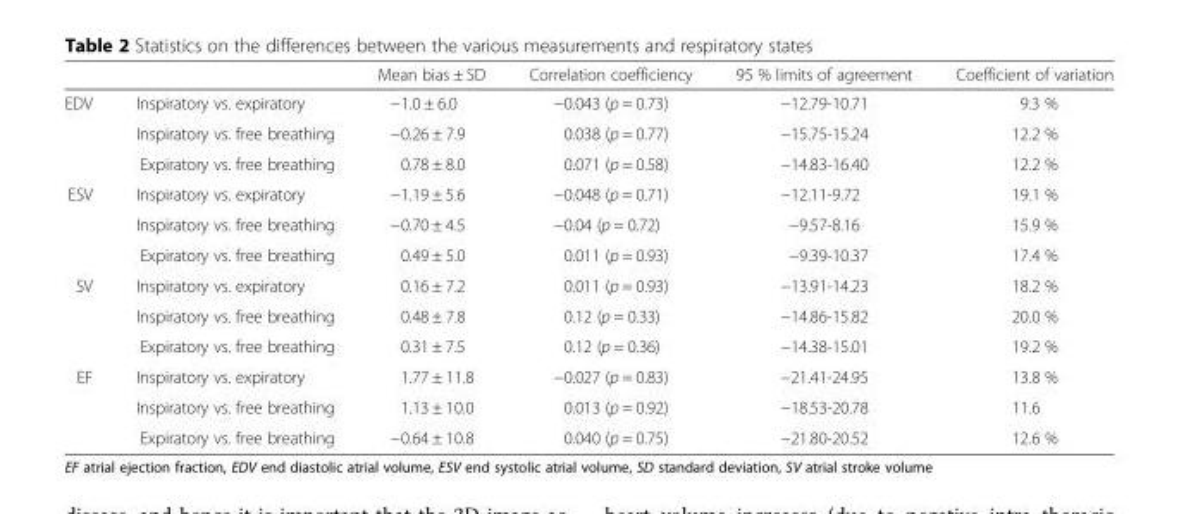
<table><thead><tr><td></td><td></td><td>Mean bias ± SD</td><td>Correlation coefficiency</td><td>95 % limits of agreement</td><td>Coefficient of variation</td></tr></thead><tbody><tr><td rowspan="3">EDV</td><td>Inspiratory vs. expiratory</td><td>−1.0 ± 6.0</td><td>−0.043 (p = 0.73)</td><td>−12.79-10.71</td><td>9.3 %</td></tr><tr><td>Inspiratory vs. free breathing</td><td>−0.26 ± 7.9</td><td>0.038 (p = 0.77)</td><td>−15.75-15.24</td><td>12.2 %</td></tr><tr><td>Expiratory vs. free breathing</td><td>0.78 ± 8.0</td><td>0.071 (p = 0.58)</td><td>−14.83-16.40</td><td>12.2 %</td></tr><tr><td rowspan="3">ESV</td><td>Inspiratory vs. expiratory</td><td>−1.19 ± 5.6</td><td>−0.048 (p = 0.71)</td><td>−12.11-9.72</td><td>19.1 %</td></tr><tr><td>Inspiratory vs. free breathing</td><td>−0.70 ± 4.5</td><td>−0.04 (p = 0.72)</td><td>−9.57-8.16</td><td>15.9 %</td></tr><tr><td>Expiratory vs. free breathing</td><td>0.49 ± 5.0</td><td>0.011 (p = 0.93)</td><td>−9.39-10.37</td><td>17.4 %</td></tr><tr><td rowspan="3">SV</td><td>Inspiratory vs. expiratory</td><td>0.16 ± 7.2</td><td>0.011 (p = 0.93)</td><td>−13.91-14.23</td><td>18.2 %</td></tr><tr><td>Inspiratory vs. free breathing</td><td>0.48 ± 7.8</td><td>0.12 (p = 0.33)</td><td>−14.86-15.82</td><td>20.0 %</td></tr><tr><td>Expiratory vs. free breathing</td><td>0.31 ± 7.5</td><td>0.12 (p = 0.36)</td><td>−14.38-15.01</td><td>19.2 %</td></tr><tr><td rowspan="3">EF</td><td>Inspiratory vs. expiratory</td><td>1.77 ± 11.8</td><td>−0.027 (p = 0.83)</td><td>−21.41-24.95</td><td>13.8 %</td></tr><tr><td>Inspiratory vs. free breathing</td><td>1.13 ± 10.0</td><td>0.013 (p = 0.92)</td><td>−18.53-20.78</td><td>11.6</td></tr><tr><td>Expiratory vs. free breathing</td><td>−0.64 ± 10.8</td><td>0.040 (p = 0.75)</td><td>−21.80-20.52</td><td>12.6 %</td></tr></tbody></table>